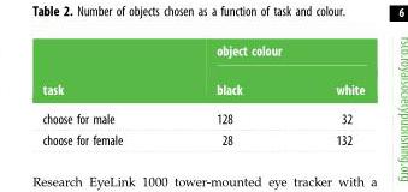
<table><thead><tr><td rowspan="2">task</td><td colspan="2">object colour</td></tr><tr><td>black</td><td>white</td></tr></thead><tbody><tr><td>choose for male</td><td>128</td><td>32</td></tr><tr><td>choose for female</td><td>28</td><td>132</td></tr></tbody></table>